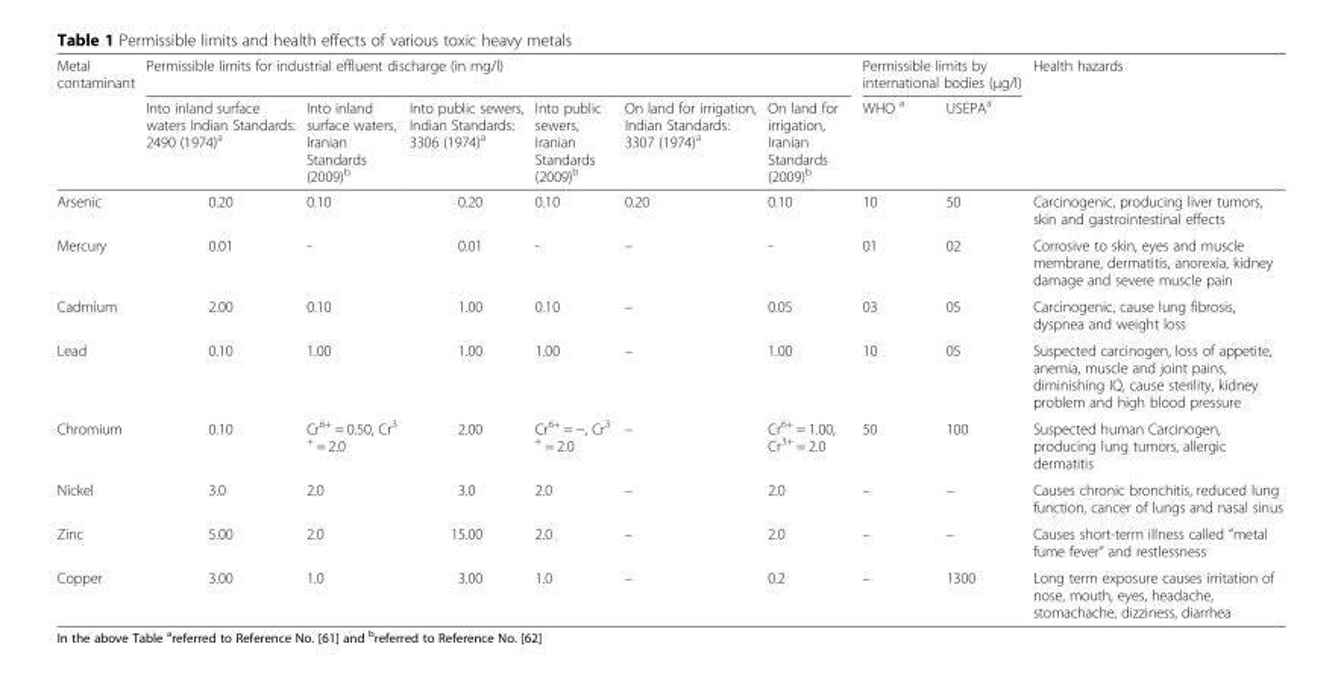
<table><thead><tr><td rowspan="2">Metal contaminant</td><td colspan="6">Permissible limits for industrial effluent discharge (in mg/l)</td><td colspan="2">Permissible limits by international bodies (μg/l)</td><td rowspan="2">Health hazards</td></tr><tr><td>Into inland surface waters Indian Standards: 2490 (1974)<sup>a</sup></td><td>Into inland surface waters, Iranian Standards (2009)<sup>b</sup></td><td>Into public sewers, Indian Standards: 3306 (1974)<sup>a</sup></td><td>Into public sewers, Iranian Standards (2009)<sup>b</sup></td><td>On land for irrigation, Indian Standards: 3307 (1974)<sup>a</sup></td><td>On land for irrigation, Iranian Standards (2009)<sup>b</sup></td><td>WHO <sup>a</sup></td><td>USEPA<sup>a</sup></td></tr></thead><tbody><tr><td>Arsenic</td><td>0.20</td><td>0.10</td><td>0.20</td><td>0.10</td><td>0.20</td><td>0.10</td><td>10</td><td>50</td><td>Carcinogenic, producing liver tumors, skin and gastrointestinal effects</td></tr><tr><td>Mercury</td><td>0.01</td><td>-</td><td>0.01</td><td>-</td><td>–</td><td>-</td><td>01</td><td>02</td><td>Corrosive to skin, eyes and muscle membrane, dermatitis, anorexia, kidney damage and severe muscle pain</td></tr><tr><td>Cadmium</td><td>2.00</td><td>0.10</td><td>1.00</td><td>0.10</td><td>–</td><td>0.05</td><td>03</td><td>05</td><td>Carcinogenic, cause lung fibrosis, dyspnea and weight loss</td></tr><tr><td>Lead</td><td>0.10</td><td>1.00</td><td>1.00</td><td>1.00</td><td>–</td><td>1.00</td><td>10</td><td>05</td><td>Suspected carcinogen, loss of appetite, anemia, muscle and joint pains, diminishing IQ, cause sterility, kidney problem and high blood pressure</td></tr><tr><td>Chromium</td><td>0.10</td><td>Cr<sup>6+</sup> = 0.50, Cr<sup>3 +</sup> = 2.0</td><td>2.00</td><td>Cr<sup>6+</sup> = −, Cr<sup>3 +</sup> = 2.0</td><td>–</td><td>Cr<sup>6+</sup> = 1.00, Cr<sup>3+</sup> = 2.0</td><td>50</td><td>100</td><td>Suspected human Carcinogen, producing lung tumors, allergic dermatitis</td></tr><tr><td>Nickel</td><td>3.0</td><td>2.0</td><td>3.0</td><td>2.0</td><td>–</td><td>2.0</td><td>–</td><td>–</td><td>Causes chronic bronchitis, reduced lung function, cancer of lungs and nasal sinus</td></tr><tr><td>Zinc</td><td>5.00</td><td>2.0</td><td>15.00</td><td>2.0</td><td>–</td><td>2.0</td><td>–</td><td>–</td><td>Causes short-term illness called “metal fume fever” and restlessness</td></tr><tr><td>Copper</td><td>3.00</td><td>1.0</td><td>3.00</td><td>1.0</td><td>–</td><td>0.2</td><td>–</td><td>1300</td><td>Long term exposure causes irritation of nose, mouth, eyes, headache, stomachache, dizziness, diarrhea</td></tr></tbody></table>